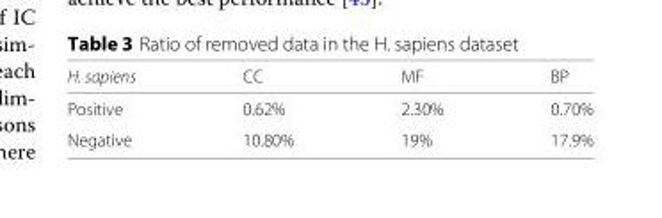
<table><thead><tr><td>H. sapiens</td><td>CC</td><td>MF</td><td>BP</td></tr></thead><tbody><tr><td>Positive</td><td>0.62%</td><td>2.30%</td><td>0.70%</td></tr><tr><td>Negative</td><td>10.80%</td><td>19%</td><td>17.9%</td></tr></tbody></table>